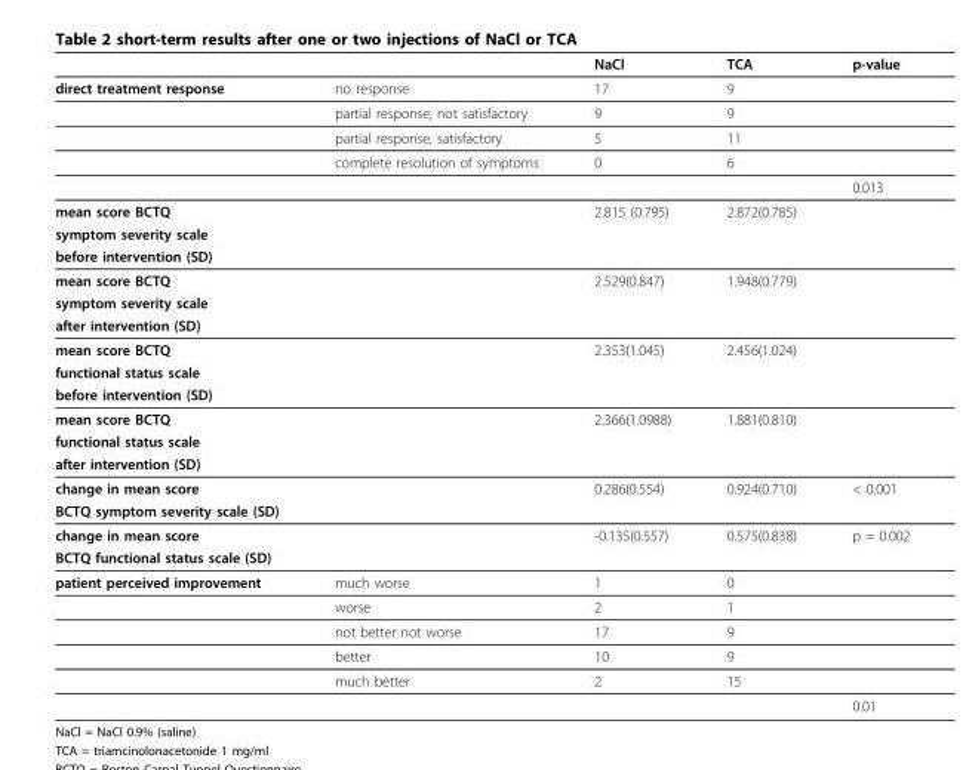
<table><thead><tr><td></td><td></td><td>NaCl</td><td>TCA</td><td>p-value</td></tr></thead><tbody><tr><td rowspan="5">direct treatment response</td><td>no response</td><td>17</td><td>9</td><td></td></tr><tr><td>partial response, not satisfactory</td><td>9</td><td>9</td><td></td></tr><tr><td>partial response, satisfactory</td><td>5</td><td>11</td><td></td></tr><tr><td>complete resolution of symptoms</td><td>0</td><td>6</td><td></td></tr><tr><td></td><td></td><td></td><td>0.013</td></tr><tr><td>mean score BCTQ</td><td></td><td>2.815 (0.795)</td><td>2.872(0.785)</td><td></td></tr><tr><td colspan="5">symptom severity scale</td></tr><tr><td colspan="5">before intervention (SD)</td></tr><tr><td>mean score BCTQ</td><td></td><td>2.529(0.847)</td><td>1.948(0.779)</td><td></td></tr><tr><td colspan="5">symptom severity scale</td></tr><tr><td colspan="5">after intervention (SD)</td></tr><tr><td>mean score BCTQ</td><td></td><td>2.353(1.045)</td><td>2.456(1.024)</td><td></td></tr><tr><td colspan="5">functional status scale</td></tr><tr><td colspan="5">before intervention (SD)</td></tr><tr><td>mean score BCTQ</td><td></td><td>2.366(1.0988)</td><td>1.881(0.810)</td><td></td></tr><tr><td colspan="5">functional status scale</td></tr><tr><td colspan="5">after intervention (SD)</td></tr><tr><td>change in mean score</td><td></td><td>0.286(0.554)</td><td>0.924(0.710)</td><td>&lt; 0.001</td></tr><tr><td colspan="5">BCTQ symptom severity scale (SD)</td></tr><tr><td>change in mean score</td><td></td><td>-0.135(0.557)</td><td>0.575(0.838)</td><td>p = 0.002</td></tr><tr><td colspan="5">BCTQ functional status scale (SD)</td></tr><tr><td rowspan="6">patient perceived improvement</td><td>much worse</td><td>1</td><td>0</td><td></td></tr><tr><td>worse</td><td>2</td><td>1</td><td></td></tr><tr><td>not better not worse</td><td>17</td><td>9</td><td></td></tr><tr><td>better</td><td>10</td><td>9</td><td></td></tr><tr><td>much better</td><td>2</td><td>15</td><td></td></tr><tr><td></td><td></td><td></td><td>0.01</td></tr></tbody></table>